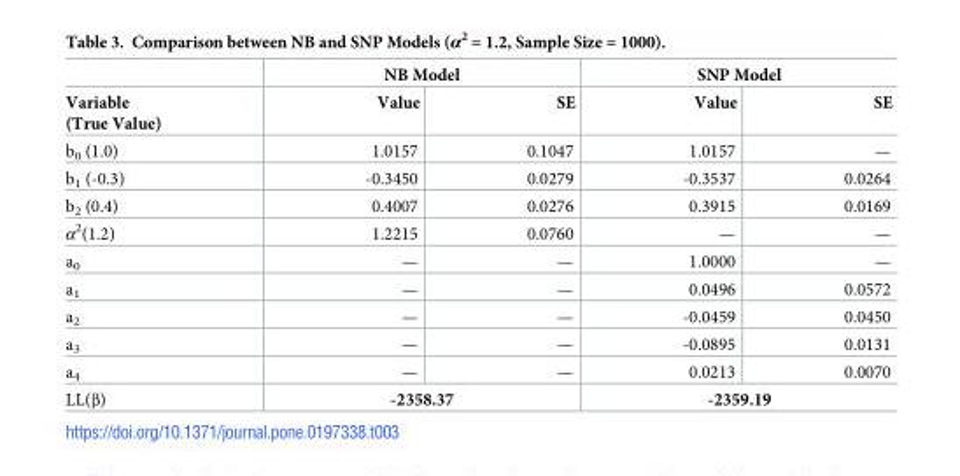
<table><thead><tr><td rowspan="2">Variable (True Value)</td><td colspan="2">NB Model</td><td colspan="2">SNP Model</td></tr><tr><td>Value</td><td>SE</td><td>Value</td><td>SE</td></tr></thead><tbody><tr><td>b<sub>0</sub> (1.0)</td><td>1.0157</td><td>0.1047</td><td>1.0157</td><td>—</td></tr><tr><td>b<sub>1</sub> (-0.3)</td><td>-0.3450</td><td>0.0279</td><td>-0.3537</td><td>0.0264</td></tr><tr><td>b<sub>2</sub> (0.4)</td><td>0.4007</td><td>0.0276</td><td>0.3915</td><td>0.0169</td></tr><tr><td>α<sup>2</sup>(1.2)</td><td>1.2215</td><td>0.0760</td><td>—</td><td>—</td></tr><tr><td>a<sub>0</sub></td><td>—</td><td>—</td><td>1.0000</td><td>—</td></tr><tr><td>a<sub>1</sub></td><td>—</td><td>—</td><td>0.0496</td><td>0.0572</td></tr><tr><td>a<sub>2</sub></td><td>—</td><td>—</td><td>-0.0459</td><td>0.0450</td></tr><tr><td>a<sub>3</sub></td><td>—</td><td>—</td><td>-0.0895</td><td>0.0131</td></tr><tr><td>a<sub>4</sub></td><td>—</td><td>—</td><td>0.0213</td><td>0.0070</td></tr><tr><td>LL(β)</td><td colspan="2">-2358.37</td><td colspan="2">-2359.19</td></tr></tbody></table>